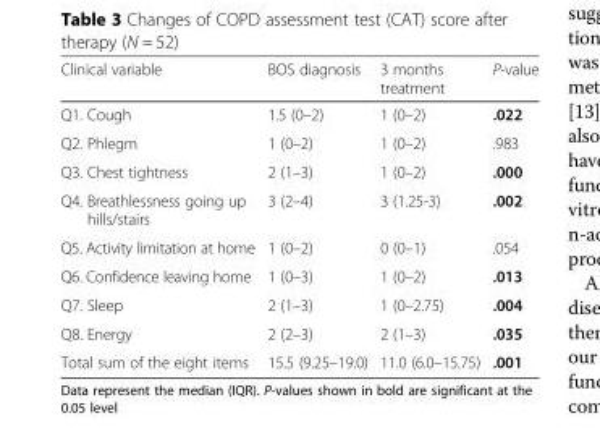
<table><thead><tr><td>Clinical variable</td><td>BOS diagnosis</td><td>3 months treatment</td><td>P-value</td></tr></thead><tbody><tr><td>Q1. Cough</td><td>1.5 (0–2)</td><td>1 (0–2)</td><td>.022</td></tr><tr><td>Q2. Phlegm</td><td>1 (0–2)</td><td>1 (0–2)</td><td>.983</td></tr><tr><td>Q3. Chest tightness</td><td>2 (1–3)</td><td>1 (0–2)</td><td>.000</td></tr><tr><td>Q4. Breathlessness going up hills/stairs</td><td>3 (2–4)</td><td>3 (1.25-3)</td><td>.002</td></tr><tr><td>Q5. Activity limitation at home</td><td>1 (0–2)</td><td>0 (0–1)</td><td>.054</td></tr><tr><td>Q6. Confidence leaving home</td><td>1 (0–3)</td><td>1 (0–2)</td><td>.013</td></tr><tr><td>Q7. Sleep</td><td>2 (1–3)</td><td>1 (0–2.75)</td><td>.004</td></tr><tr><td>Q8. Energy</td><td>2 (2–3)</td><td>2 (1–3)</td><td>.035</td></tr><tr><td>Total sum of the eight items</td><td>15.5 (9.25–19.0)</td><td>11.0 (6.0–15.75)</td><td>.001</td></tr></tbody></table>